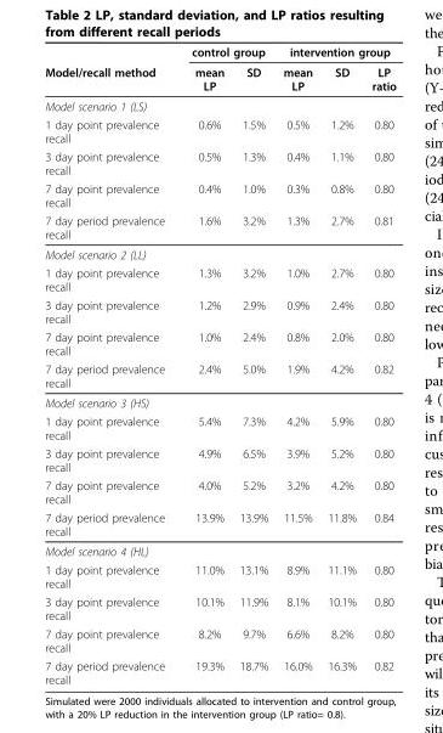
<table><thead><tr><td rowspan="2">Model/recall method</td><td colspan="2">control group</td><td colspan="3">intervention group</td></tr><tr><td>mean LP</td><td>SD</td><td>mean LP</td><td>SD</td><td>LP ratio</td></tr></thead><tbody><tr><td colspan="6">Model scenario 1 (LS)</td></tr><tr><td>1 day point prevalence recall</td><td>0.6%</td><td>1.5%</td><td>0.5%</td><td>1.2%</td><td>0.80</td></tr><tr><td>3 day point prevalence recall</td><td>0.5%</td><td>1.3%</td><td>0.4%</td><td>1.1%</td><td>0.80</td></tr><tr><td>7 day point prevalence recall</td><td>0.4%</td><td>1.0%</td><td>0.3%</td><td>0.8%</td><td>0.80</td></tr><tr><td>7 day period prevalence recall</td><td>1.6%</td><td>3.2%</td><td>1.3%</td><td>2.7%</td><td>0.81</td></tr><tr><td colspan="6">Model scenario 2 (LL)</td></tr><tr><td>1 day point prevalence recall</td><td>1.3%</td><td>3.2%</td><td>1.0%</td><td>2.7%</td><td>0.80</td></tr><tr><td>3 day point prevalence recall</td><td>1.2%</td><td>2.9%</td><td>0.9%</td><td>2.4%</td><td>0.80</td></tr><tr><td>7 day point prevalence recall</td><td>1.0%</td><td>2.4%</td><td>0.8%</td><td>2.0%</td><td>0.80</td></tr><tr><td>7 day period prevalence recall</td><td>2.4%</td><td>5.0%</td><td>1.9%</td><td>4.2%</td><td>0.82</td></tr><tr><td colspan="6">Model scenario 3 (HS)</td></tr><tr><td>1 day point prevalence recall</td><td>5.4%</td><td>7.3%</td><td>4.2%</td><td>5.9%</td><td>0.80</td></tr><tr><td>3 day point prevalence recall</td><td>4.9%</td><td>6.5%</td><td>3.9%</td><td>5.2%</td><td>0.80</td></tr><tr><td>7 day point prevalence recall</td><td>4.0%</td><td>5.2%</td><td>3.2%</td><td>4.2%</td><td>0.80</td></tr><tr><td>7 day period prevalence recall</td><td>13.9%</td><td>13.9%</td><td>11.5%</td><td>11.8%</td><td>0.84</td></tr><tr><td colspan="6">Model scenario 4 (HL)</td></tr><tr><td>1 day point prevalence recall</td><td>11.0%</td><td>13.1%</td><td>8.9%</td><td>11.1%</td><td>0.80</td></tr><tr><td>3 day point prevalence recall</td><td>10.1%</td><td>11.9%</td><td>8.1%</td><td>10.1%</td><td>0.80</td></tr><tr><td>7 day point prevalence recall</td><td>8.2%</td><td>9.7%</td><td>6.6%</td><td>8.2%</td><td>0.80</td></tr><tr><td>7 day period prevalence recall</td><td>19.3%</td><td>18.7%</td><td>16.0%</td><td>16.3%</td><td>0.82</td></tr></tbody></table>